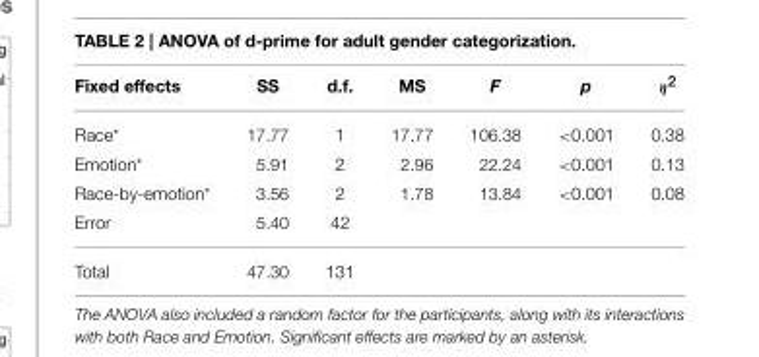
<table><thead><tr><td>Fixed effects</td><td>SS</td><td>d.f.</td><td>MS</td><td>F</td><td>p</td><td>η<sup>2</sup></td></tr></thead><tbody><tr><td>Race*</td><td>17.77</td><td>1</td><td>17.77</td><td>106.38</td><td>&lt;0.001</td><td>0.38</td></tr><tr><td>Emotion*</td><td>5.91</td><td>2</td><td>2.96</td><td>22.24</td><td>&lt;0.001</td><td>0.13</td></tr><tr><td>Race-by-emotion*</td><td>3.56</td><td>2</td><td>1.78</td><td>13.84</td><td>&lt;0.001</td><td>0.08</td></tr><tr><td>Error</td><td>5.40</td><td>42</td><td></td><td></td><td></td><td></td></tr><tr><td>Total</td><td>47.30</td><td>131</td><td></td><td></td><td></td><td></td></tr></tbody></table>